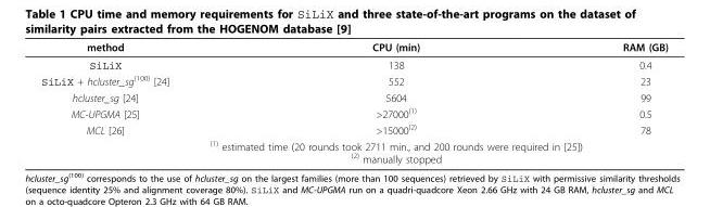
<table><thead><tr><td>method</td><td>CPU (min)</td><td>RAM (GB)</td></tr></thead><tbody><tr><td>SiLiX</td><td>138</td><td>0.4</td></tr><tr><td>SiLiX + hcluster_sg<sup>(100)</sup> [24]</td><td>552</td><td>23</td></tr><tr><td>hcluster_sg [24]</td><td>5604</td><td>99</td></tr><tr><td>MC-UPGMA [25]</td><td>&gt;27000<sup>(1)</sup></td><td>0.5</td></tr><tr><td rowspan="2">MCL [26]</td><td>&gt;15000<sup>(2)</sup></td><td>78</td></tr><tr><td><sup>(1)</sup> estimated time (20 rounds took 2711 min., and 200 rounds were required in [25]) <sup>(2)</sup> manually stopped</td><td></td></tr></tbody></table>